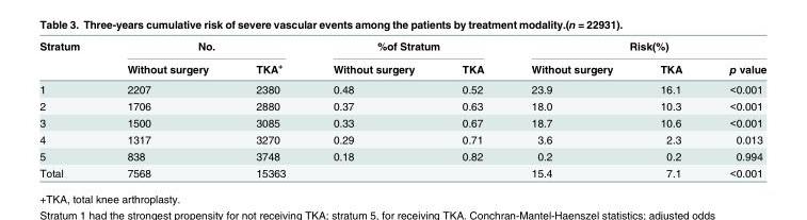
<table><thead><tr><td rowspan="2">Stratum</td><td colspan="2">No.</td><td colspan="2">%of Stratum</td><td colspan="3">Risk(%)</td></tr><tr><td>Without surgery</td><td>TKA<sup>+</sup></td><td>Without surgery</td><td>TKA</td><td>Without surgery</td><td>TKA</td><td>p value</td></tr></thead><tbody><tr><td>1</td><td>2207</td><td>2380</td><td>0.48</td><td>0.52</td><td>23.9</td><td>16.1</td><td>&lt;0.001</td></tr><tr><td>2</td><td>1706</td><td>2880</td><td>0.37</td><td>0.63</td><td>18.0</td><td>10.3</td><td>&lt;0.001</td></tr><tr><td>3</td><td>1500</td><td>3085</td><td>0.33</td><td>0.67</td><td>18.7</td><td>10.6</td><td>&lt;0.001</td></tr><tr><td>4</td><td>1317</td><td>3270</td><td>0.29</td><td>0.71</td><td>3.6</td><td>2.3</td><td>0.013</td></tr><tr><td>5</td><td>838</td><td>3748</td><td>0.18</td><td>0.82</td><td>0.2</td><td>0.2</td><td>0.994</td></tr><tr><td>Total</td><td>7568</td><td>15363</td><td></td><td></td><td>15.4</td><td>7.1</td><td>&lt;0.001</td></tr></tbody></table>